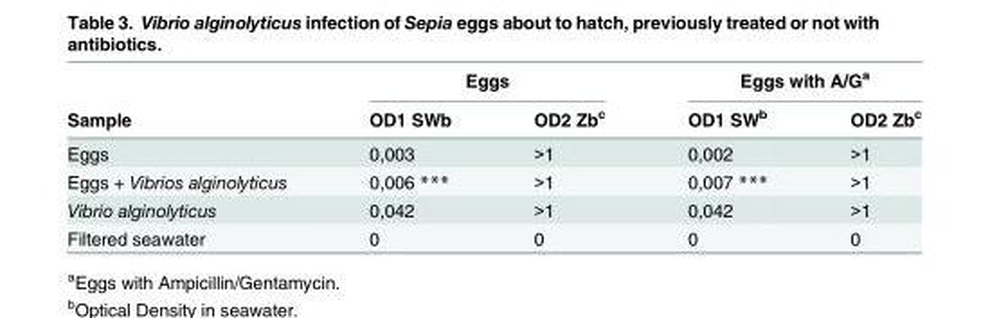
<table><thead><tr><td rowspan="2">Sample</td><td colspan="2">Eggs</td><td colspan="2">Eggs with A/G<sup>a</sup></td></tr><tr><td>OD1 SWb</td><td>OD2 Zb<sup>c</sup></td><td>OD1 SW<sup>b</sup></td><td>OD2 Zb<sup>c</sup></td></tr></thead><tbody><tr><td>Eggs</td><td>0,003</td><td>&gt;1</td><td>0,002</td><td>&gt;1</td></tr><tr><td>Eggs + Vibrios alginolyticus</td><td>0,006 ***</td><td>&gt;1</td><td>0,007 ***</td><td>&gt;1</td></tr><tr><td>Vibrio alginolyticus</td><td>0,042</td><td>&gt;1</td><td>0,042</td><td>&gt;1</td></tr><tr><td>Filtered seawater</td><td>0</td><td>0</td><td>0</td><td>0</td></tr></tbody></table>